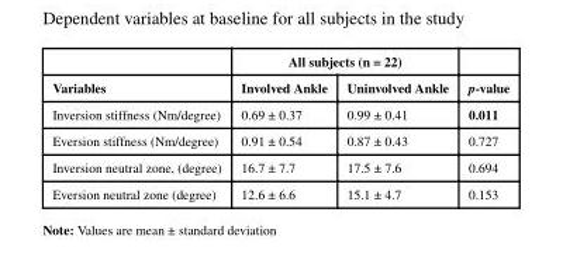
<table><thead><tr><td rowspan="2">Variables</td><td colspan="2">All subjects (n = 22)</td><td rowspan="2">p-value</td></tr><tr><td>Involved Ankle</td><td>Uninvolved Ankle</td></tr></thead><tbody><tr><td>Inversion stiffness (Nm/degree)</td><td>0.69 ± 0.37</td><td>0.99 ± 0.41</td><td>0.011</td></tr><tr><td>Eversion stiffness (Nm/degree)</td><td>0.91 ± 0.54</td><td>0.87 ± 0.43</td><td>0.727</td></tr><tr><td>Inversion neutral zone, (degree)</td><td>16.7 ± 7.7</td><td>17.5 ± 7.6</td><td>0.694</td></tr><tr><td>Eversion neutral zone (degree)</td><td>12.6 ± 6.6</td><td>15.1 ± 4.7</td><td>0.153</td></tr></tbody></table>